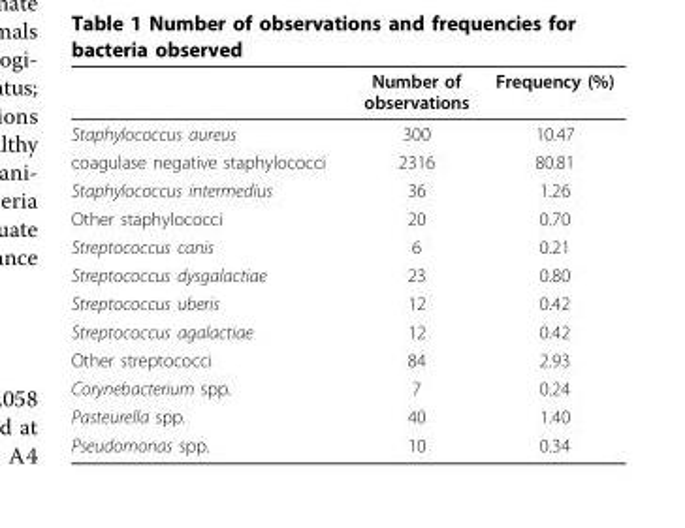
<table><thead><tr><td></td><td>Number of observations</td><td>Frequency (%)</td></tr></thead><tbody><tr><td>Staphylococcus aureus</td><td>300</td><td>10.47</td></tr><tr><td>coagulase negative staphylococci</td><td>2316</td><td>80.81</td></tr><tr><td>Staphylococcus intermedius</td><td>36</td><td>1.26</td></tr><tr><td>Other staphylococci</td><td>20</td><td>0.70</td></tr><tr><td>Streptococcus canis</td><td>6</td><td>0.21</td></tr><tr><td>Streptococcus dysgalactiae</td><td>23</td><td>0.80</td></tr><tr><td>Streptococcus uberis</td><td>12</td><td>0.42</td></tr><tr><td>Streptococcus agalactiae</td><td>12</td><td>0.42</td></tr><tr><td>Other streptococci</td><td>84</td><td>2.93</td></tr><tr><td>Corynebacterium spp.</td><td>7</td><td>0.24</td></tr><tr><td>Pasteurella spp.</td><td>40</td><td>1.40</td></tr><tr><td>Pseudomonas spp.</td><td>10</td><td>0.34</td></tr></tbody></table>